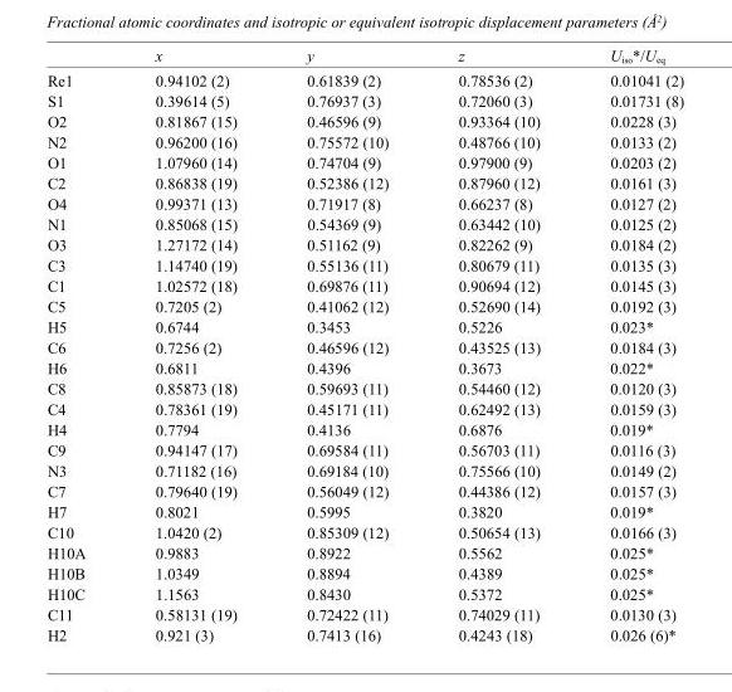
<table><thead><tr><td></td><td>x</td><td>y</td><td>z</td><td>U<sub>iso</sub>*/U<sub>eq</sub></td></tr></thead><tbody><tr><td>Re1</td><td>0.94102 (2)</td><td>0.61839 (2)</td><td>0.78536 (2)</td><td>0.01041 (2)</td></tr><tr><td>S1</td><td>0.39614 (5)</td><td>0.76937 (3)</td><td>0.72060 (3)</td><td>0.01731 (8)</td></tr><tr><td>O2</td><td>0.81867 (15)</td><td>0.46596 (9)</td><td>0.93364 (10)</td><td>0.0228 (3)</td></tr><tr><td>N2</td><td>0.96200 (16)</td><td>0.75572 (10)</td><td>0.48766 (10)</td><td>0.0133 (2)</td></tr><tr><td>O1</td><td>1.07960 (14)</td><td>0.74704 (9)</td><td>0.97900 (9)</td><td>0.0203 (2)</td></tr><tr><td>C2</td><td>0.86838 (19)</td><td>0.52386 (12)</td><td>0.87960 (12)</td><td>0.0161 (3)</td></tr><tr><td>O4</td><td>0.99371 (13)</td><td>0.71917 (8)</td><td>0.66237 (8)</td><td>0.0127 (2)</td></tr><tr><td>N1</td><td>0.85068 (15)</td><td>0.54369 (9)</td><td>0.63442 (10)</td><td>0.0125 (2)</td></tr><tr><td>O3</td><td>1.27172 (14)</td><td>0.51162 (9)</td><td>0.82262 (9)</td><td>0.0184 (2)</td></tr><tr><td>C3</td><td>1.14740 (19)</td><td>0.55136 (11)</td><td>0.80679 (11)</td><td>0.0135 (3)</td></tr><tr><td>C1</td><td>1.02572 (18)</td><td>0.69876 (11)</td><td>0.90694 (12)</td><td>0.0145 (3)</td></tr><tr><td>C5</td><td>0.7205 (2)</td><td>0.41062 (12)</td><td>0.52690 (14)</td><td>0.0192 (3)</td></tr><tr><td>H5</td><td>0.6744</td><td>0.3453</td><td>0.5226</td><td>0.023*</td></tr><tr><td>C6</td><td>0.7256 (2)</td><td>0.46596 (12)</td><td>0.43525 (13)</td><td>0.0184 (3)</td></tr><tr><td>H6</td><td>0.6811</td><td>0.4396</td><td>0.3673</td><td>0.022*</td></tr><tr><td>C8</td><td>0.85873 (18)</td><td>0.59693 (11)</td><td>0.54460 (12)</td><td>0.0120 (3)</td></tr><tr><td>C4</td><td>0.78361 (19)</td><td>0.45171 (11)</td><td>0.62492 (13)</td><td>0.0159 (3)</td></tr><tr><td>H4</td><td>0.7794</td><td>0.4136</td><td>0.6876</td><td>0.019*</td></tr><tr><td>C9</td><td>0.94147 (17)</td><td>0.69584 (11)</td><td>0.56703 (11)</td><td>0.0116 (3)</td></tr><tr><td>N3</td><td>0.71182 (16)</td><td>0.69184 (10)</td><td>0.75566 (10)</td><td>0.0149 (2)</td></tr><tr><td>C7</td><td>0.79640 (19)</td><td>0.56049 (12)</td><td>0.44386 (12)</td><td>0.0157 (3)</td></tr><tr><td>H7</td><td>0.8021</td><td>0.5995</td><td>0.3820</td><td>0.019*</td></tr><tr><td>C10</td><td>1.0420 (2)</td><td>0.85309 (12)</td><td>0.50654 (13)</td><td>0.0166 (3)</td></tr><tr><td>H10A</td><td>0.9883</td><td>0.8922</td><td>0.5562</td><td>0.025*</td></tr><tr><td>H10B</td><td>1.0349</td><td>0.8894</td><td>0.4389</td><td>0.025*</td></tr><tr><td>H10C</td><td>1.1563</td><td>0.8430</td><td>0.5372</td><td>0.025*</td></tr><tr><td>C11</td><td>0.58131 (19)</td><td>0.72422 (11)</td><td>0.74029 (11)</td><td>0.0130 (3)</td></tr><tr><td>H2</td><td>0.921 (3)</td><td>0.7413 (16)</td><td>0.4243 (18)</td><td>0.026 (6)*</td></tr></tbody></table>